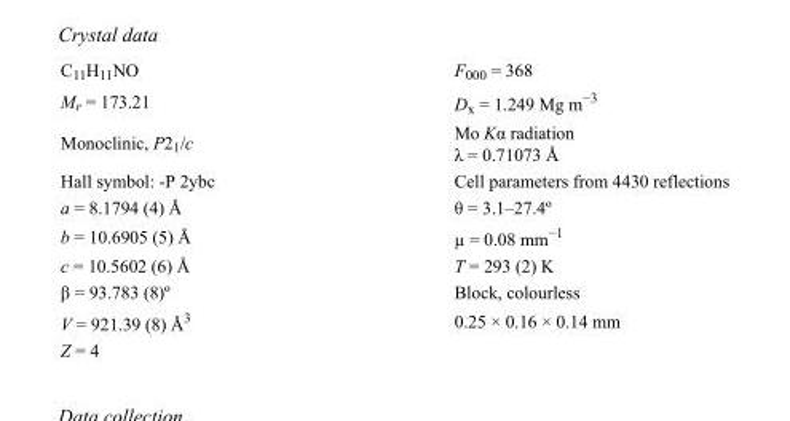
<table><tbody><tr><td>C<sub>11</sub>H<sub>11</sub>NO</td><td>F000 = 368</td></tr><tr><td>M<sub>r</sub> = 173.21</td><td>D<sub>x</sub> = 1.249 Mg m<sup>−3</sup></td></tr><tr><td>Monoclinic, P2<sub>1</sub>/c</td><td>Mo Kα radiation λ = 0.71073 Å</td></tr><tr><td>Hall symbol: -P 2ybc</td><td>Cell parameters from 4430 reflections</td></tr><tr><td>a = 8.1794 (4) Å</td><td>θ = 3.1–27.4º</td></tr><tr><td>b = 10.6905 (5) Å</td><td>µ = 0.08 mm<sup>−1</sup></td></tr><tr><td>c = 10.5602 (6) Å</td><td>T = 293 (2) K</td></tr><tr><td>β = 93.783 (8)º</td><td>Block, colourless</td></tr><tr><td>V = 921.39 (8) Å<sup>3</sup></td><td>0.25 × 0.16 × 0.14 mm</td></tr><tr><td>Z = 4</td><td></td></tr></tbody></table>